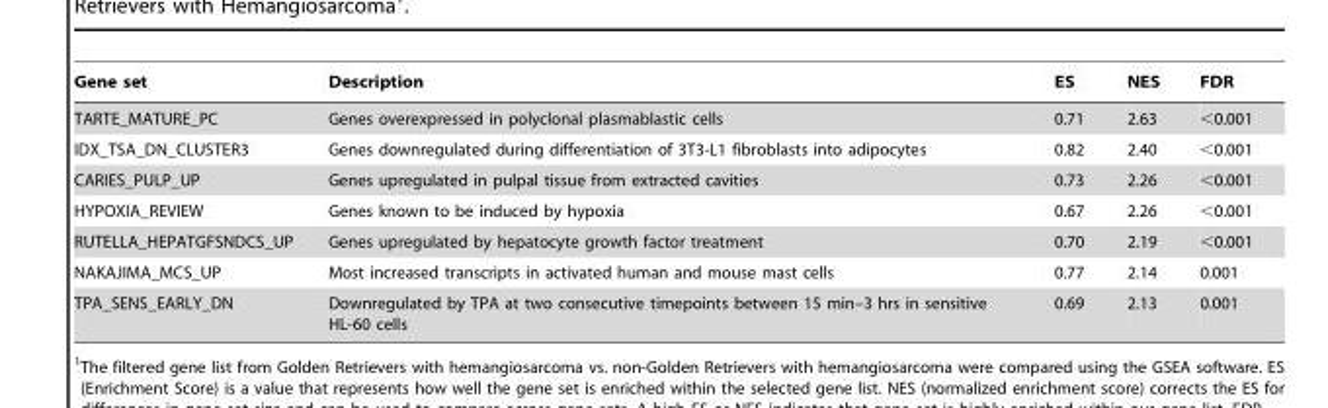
<table><thead><tr><td>Gene set</td><td>Description</td><td>ES</td><td>NES</td><td>FDR</td></tr></thead><tbody><tr><td>TARTE_MATURE_PC</td><td>Genes overexpressed in polyclonal plasmablastic cells</td><td>0.71</td><td>2.63</td><td>&lt;0.001</td></tr><tr><td>IDX_TSA_DN_CLUSTER3</td><td>Genes downregulated during differentiation of 3T3-L1 fibroblasts into adipocytes</td><td>0.82</td><td>2.40</td><td>&lt;0.001</td></tr><tr><td>CARIES_PULP_UP</td><td>Genes upregulated in pulpal tissue from extracted cavities</td><td>0.73</td><td>2.26</td><td>&lt;0.001</td></tr><tr><td>HYPOXIA_REVIEW</td><td>Genes known to be induced by hypoxia</td><td>0.67</td><td>2.26</td><td>&lt;0.001</td></tr><tr><td>RUTELLA_HEPATGFSNDCS_UP</td><td>Genes upregulated by hepatocyte growth factor treatment</td><td>0.70</td><td>2.19</td><td>&lt;0.001</td></tr><tr><td>NAKAJIMA_MCS_UP</td><td>Most increased transcripts in activated human and mouse mast cells</td><td>0.77</td><td>2.14</td><td>0.001</td></tr><tr><td>TPA_SENS_EARLY_DN</td><td>Downregulated by TPA at two consecutive timepoints between 15 min–3 hrs in sensitive HL-60 cells</td><td>0.69</td><td>2.13</td><td>0.001</td></tr></tbody></table>